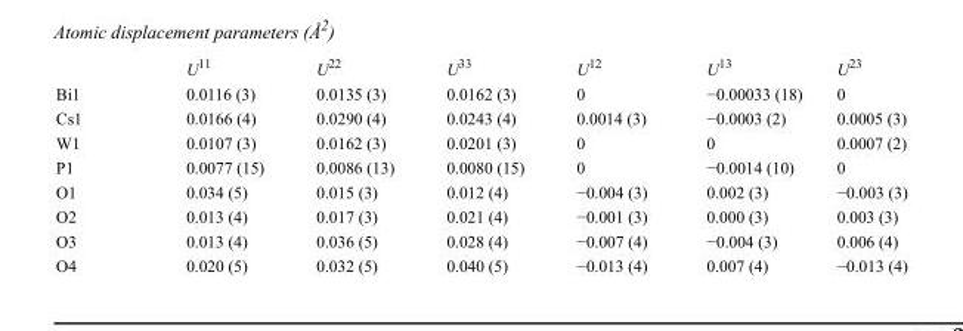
<table><thead><tr><td></td><td>U<sup>11</sup></td><td>U<sup>22</sup></td><td>U<sup>33</sup></td><td>U<sup>12</sup></td><td>U<sup>13</sup></td><td>U<sup>23</sup></td></tr></thead><tbody><tr><td>Bi1</td><td>0.0116 (3)</td><td>0.0135 (3)</td><td>0.0162 (3)</td><td>0</td><td>−0.00033 (18)</td><td>0</td></tr><tr><td>Cs1</td><td>0.0166 (4)</td><td>0.0290 (4)</td><td>0.0243 (4)</td><td>0.0014 (3)</td><td>−0.0003 (2)</td><td>0.0005 (3)</td></tr><tr><td>W1</td><td>0.0107 (3)</td><td>0.0162 (3)</td><td>0.0201 (3)</td><td>0</td><td>0</td><td>0.0007 (2)</td></tr><tr><td>P1</td><td>0.0077 (15)</td><td>0.0086 (13)</td><td>0.0080 (15)</td><td>0</td><td>−0.0014 (10)</td><td>0</td></tr><tr><td>O1</td><td>0.034 (5)</td><td>0.015 (3)</td><td>0.012 (4)</td><td>−0.004 (3)</td><td>0.002 (3)</td><td>−0.003 (3)</td></tr><tr><td>O2</td><td>0.013 (4)</td><td>0.017 (3)</td><td>0.021 (4)</td><td>−0.001 (3)</td><td>0.000 (3)</td><td>0.003 (3)</td></tr><tr><td>O3</td><td>0.013 (4)</td><td>0.036 (5)</td><td>0.028 (4)</td><td>−0.007 (4)</td><td>−0.004 (3)</td><td>0.006 (4)</td></tr><tr><td>O4</td><td>0.020 (5)</td><td>0.032 (5)</td><td>0.040 (5)</td><td>−0.013 (4)</td><td>0.007 (4)</td><td>−0.013 (4)</td></tr></tbody></table>